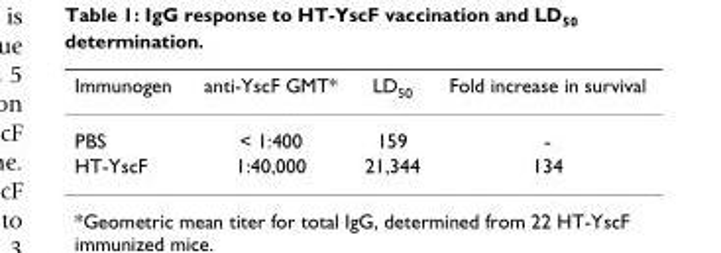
<table><thead><tr><td>Immunogen</td><td>anti-YscF GMT*</td><td>LD50</td><td>Fold increase in survival</td></tr></thead><tbody><tr><td>PBS</td><td>&lt; 1:400</td><td>159</td><td>-</td></tr><tr><td>HT-YscF</td><td>1:40,000</td><td>21,344</td><td>134</td></tr></tbody></table>